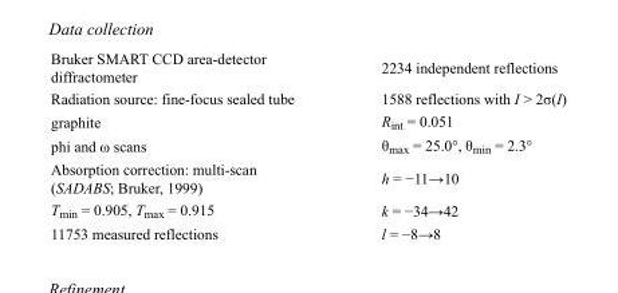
<table><tbody><tr><td>Bruker SMART CCD area-detector diffractometer</td><td>2234 independent reflections</td></tr><tr><td>Radiation source: fine-focus sealed tube</td><td>1588 reflections with I &gt; 2σ(I)</td></tr><tr><td>graphite</td><td>R<sub>int</sub> = 0.051</td></tr><tr><td>phi and ω scans</td><td>θ<sub>max</sub> = 25.0°, θ<sub>min</sub> = 2.3°</td></tr><tr><td>Absorption correction: multi-scan (SADABS; Bruker, 1999)</td><td>h = −11→10</td></tr><tr><td>T<sub>min</sub> = 0.905, T<sub>max</sub> = 0.915</td><td>k = −34→42</td></tr><tr><td>11753 measured reflections</td><td>l = −8→8</td></tr></tbody></table>